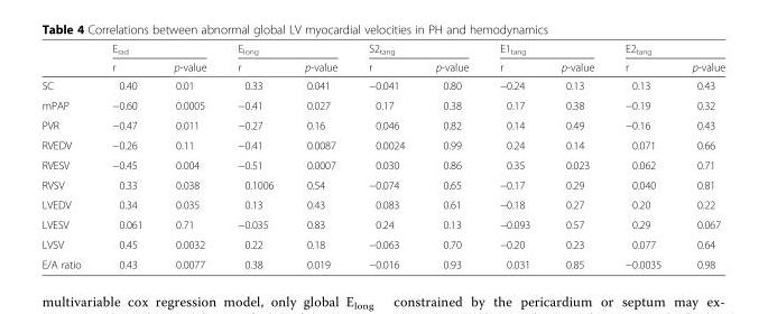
<table><thead><tr><td rowspan="2"></td><td colspan="2">E<sub>rad</sub></td><td colspan="2">E<sub>long</sub></td><td colspan="2">S2<sub>tang</sub></td><td colspan="2">E1<sub>tang</sub></td><td colspan="2">E2<sub>tang</sub></td></tr><tr><td>r</td><td>p-value</td><td>r</td><td>p-value</td><td>r</td><td>p-value</td><td>r</td><td>p-value</td><td>r</td><td>p-value</td></tr></thead><tbody><tr><td>SC</td><td>0.40</td><td>0.01</td><td>0.33</td><td>0.041</td><td>−0.041</td><td>0.80</td><td>−0.24</td><td>0.13</td><td>0.13</td><td>0.43</td></tr><tr><td>mPAP</td><td>−0.60</td><td>0.0005</td><td>−0.41</td><td>0.027</td><td>0.17</td><td>0.38</td><td>0.17</td><td>0.38</td><td>−0.19</td><td>0.32</td></tr><tr><td>PVR</td><td>−0.47</td><td>0.011</td><td>−0.27</td><td>0.16</td><td>0.046</td><td>0.82</td><td>0.14</td><td>0.49</td><td>−0.16</td><td>0.43</td></tr><tr><td>RVEDV</td><td>−0.26</td><td>0.11</td><td>−0.41</td><td>0.0087</td><td>0.0024</td><td>0.99</td><td>0.24</td><td>0.14</td><td>0.071</td><td>0.66</td></tr><tr><td>RVESV</td><td>−0.45</td><td>0.004</td><td>−0.51</td><td>0.0007</td><td>0.030</td><td>0.86</td><td>0.35</td><td>0.023</td><td>0.062</td><td>0.71</td></tr><tr><td>RVSV</td><td>0.33</td><td>0.038</td><td>0.1006</td><td>0.54</td><td>−0.074</td><td>0.65</td><td>−0.17</td><td>0.29</td><td>0.040</td><td>0.81</td></tr><tr><td>LVEDV</td><td>0.34</td><td>0.035</td><td>0.13</td><td>0.43</td><td>0.083</td><td>0.61</td><td>−0.18</td><td>0.27</td><td>0.20</td><td>0.22</td></tr><tr><td>LVESV</td><td>0.061</td><td>0.71</td><td>−0.035</td><td>0.83</td><td>0.24</td><td>0.13</td><td>−0.093</td><td>0.57</td><td>0.29</td><td>0.067</td></tr><tr><td>LVSV</td><td>0.45</td><td>0.0032</td><td>0.22</td><td>0.18</td><td>−0.063</td><td>0.70</td><td>−0.20</td><td>0.23</td><td>0.077</td><td>0.64</td></tr><tr><td>E/A ratio</td><td>0.43</td><td>0.0077</td><td>0.38</td><td>0.019</td><td>−0.016</td><td>0.93</td><td>0.031</td><td>0.85</td><td>−0.0035</td><td>0.98</td></tr></tbody></table>